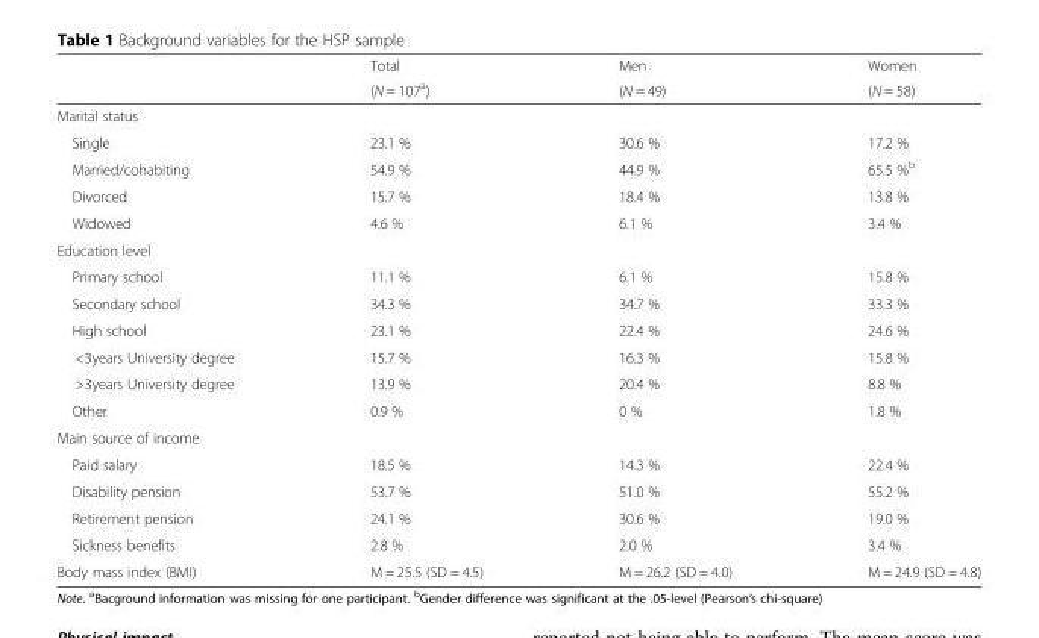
<table><thead><tr><td rowspan="2"></td><td rowspan="2">Total (N = 107<sup>a</sup>)</td><td rowspan="2">Men (N = 49)</td><td rowspan="2">Women (N = 58)</td></tr><tr></tr></thead><tbody><tr><td colspan="4">Marital status</td></tr><tr><td>Single</td><td>23.1 %</td><td>30.6 %</td><td>17.2 %</td></tr><tr><td>Married/cohabiting</td><td>54.9 %</td><td>44.9 %</td><td>65.5 %<sup>b</sup></td></tr><tr><td>Divorced</td><td>15.7 %</td><td>18.4 %</td><td>13.8 %</td></tr><tr><td>Widowed</td><td>4.6 %</td><td>6.1 %</td><td>3.4 %</td></tr><tr><td colspan="4">Education level</td></tr><tr><td>Primary school</td><td>11.1 %</td><td>6.1 %</td><td>15.8 %</td></tr><tr><td>Secondary school</td><td>34.3 %</td><td>34.7 %</td><td>33.3 %</td></tr><tr><td>High school</td><td>23.1 %</td><td>22.4 %</td><td>24.6 %</td></tr><tr><td>&lt;3years University degree</td><td>15.7 %</td><td>16.3 %</td><td>15.8 %</td></tr><tr><td>&gt;3years University degree</td><td>13.9 %</td><td>20.4 %</td><td>8.8 %</td></tr><tr><td>Other</td><td>0.9 %</td><td>0 %</td><td>1.8 %</td></tr><tr><td colspan="4">Main source of income</td></tr><tr><td>Paid salary</td><td>18.5 %</td><td>14.3 %</td><td>22.4 %</td></tr><tr><td>Disability pension</td><td>53.7 %</td><td>51.0 %</td><td>55.2 %</td></tr><tr><td>Retirement pension</td><td>24.1 %</td><td>30.6 %</td><td>19.0 %</td></tr><tr><td>Sickness benefits</td><td>2.8 %</td><td>2.0 %</td><td>3.4 %</td></tr><tr><td>Body mass index (BMI)</td><td>M = 25.5 (SD = 4.5)</td><td>M = 26.2 (SD = 4.0)</td><td>M = 24.9 (SD = 4.8)</td></tr></tbody></table>